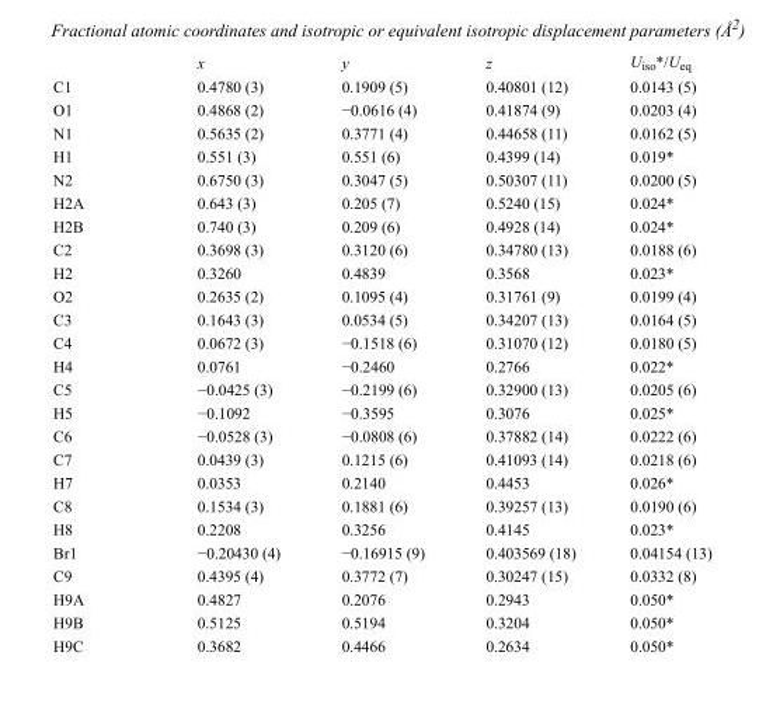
<table><thead><tr><td></td><td>x</td><td>y</td><td>z</td><td>U<sub>iso</sub>*/U<sub>eq</sub></td></tr></thead><tbody><tr><td>C1</td><td>0.4780 (3)</td><td>0.1909 (5)</td><td>0.40801 (12)</td><td>0.0143 (5)</td></tr><tr><td>O1</td><td>0.4868 (2)</td><td>−0.0616 (4)</td><td>0.41874 (9)</td><td>0.0203 (4)</td></tr><tr><td>N1</td><td>0.5635 (2)</td><td>0.3771 (4)</td><td>0.44658 (11)</td><td>0.0162 (5)</td></tr><tr><td>H1</td><td>0.551 (3)</td><td>0.551 (6)</td><td>0.4399 (14)</td><td>0.019*</td></tr><tr><td>N2</td><td>0.6750 (3)</td><td>0.3047 (5)</td><td>0.50307 (11)</td><td>0.0200 (5)</td></tr><tr><td>H2A</td><td>0.643 (3)</td><td>0.205 (7)</td><td>0.5240 (15)</td><td>0.024*</td></tr><tr><td>H2B</td><td>0.740 (3)</td><td>0.209 (6)</td><td>0.4928 (14)</td><td>0.024*</td></tr><tr><td>C2</td><td>0.3698 (3)</td><td>0.3120 (6)</td><td>0.34780 (13)</td><td>0.0188 (6)</td></tr><tr><td>H2</td><td>0.3260</td><td>0.4839</td><td>0.3568</td><td>0.023*</td></tr><tr><td>O2</td><td>0.2635 (2)</td><td>0.1095 (4)</td><td>0.31761 (9)</td><td>0.0199 (4)</td></tr><tr><td>C3</td><td>0.1643 (3)</td><td>0.0534 (5)</td><td>0.34207 (13)</td><td>0.0164 (5)</td></tr><tr><td>C4</td><td>0.0672 (3)</td><td>−0.1518 (6)</td><td>0.31070 (12)</td><td>0.0180 (5)</td></tr><tr><td>H4</td><td>0.0761</td><td>−0.2460</td><td>0.2766</td><td>0.022*</td></tr><tr><td>C5</td><td>−0.0425 (3)</td><td>−0.2199 (6)</td><td>0.32900 (13)</td><td>0.0205 (6)</td></tr><tr><td>H5</td><td>−0.1092</td><td>−0.3595</td><td>0.3076</td><td>0.025*</td></tr><tr><td>C6</td><td>−0.0528 (3)</td><td>−0.0808 (6)</td><td>0.37882 (14)</td><td>0.0222 (6)</td></tr><tr><td>C7</td><td>0.0439 (3)</td><td>0.1215 (6)</td><td>0.41093 (14)</td><td>0.0218 (6)</td></tr><tr><td>H7</td><td>0.0353</td><td>0.2140</td><td>0.4453</td><td>0.026*</td></tr><tr><td>C8</td><td>0.1534 (3)</td><td>0.1881 (6)</td><td>0.39257 (13)</td><td>0.0190 (6)</td></tr><tr><td>H8</td><td>0.2208</td><td>0.3256</td><td>0.4145</td><td>0.023*</td></tr><tr><td>Br1</td><td>−0.20430 (4)</td><td>−0.16915 (9)</td><td>0.403569 (18)</td><td>0.04154 (13)</td></tr><tr><td>C9</td><td>0.4395 (4)</td><td>0.3772 (7)</td><td>0.30247 (15)</td><td>0.0332 (8)</td></tr><tr><td>H9A</td><td>0.4827</td><td>0.2076</td><td>0.2943</td><td>0.050*</td></tr><tr><td>H9B</td><td>0.5125</td><td>0.5194</td><td>0.3204</td><td>0.050*</td></tr><tr><td>H9C</td><td>0.3682</td><td>0.4466</td><td>0.2634</td><td>0.050*</td></tr></tbody></table>